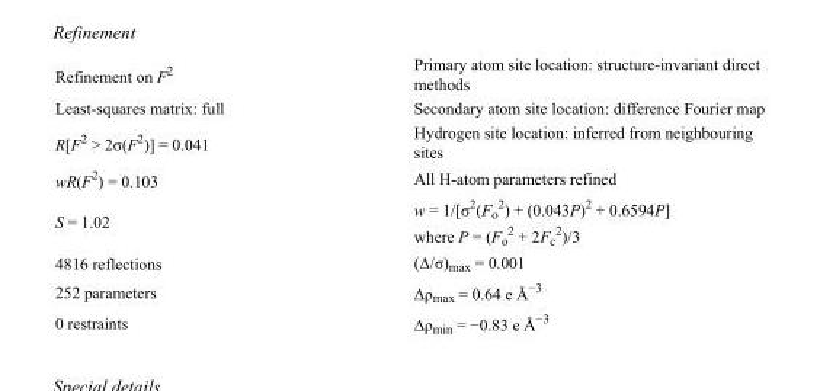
<table><tbody><tr><td>Refinement on F<sup>2</sup></td><td>Primary atom site location: structure-invariant direct methods</td></tr><tr><td>Least-squares matrix: full</td><td>Secondary atom site location: difference Fourier map</td></tr><tr><td>R[F<sup>2</sup> &gt; 2σ(F<sup>2</sup>)] = 0.041</td><td>Hydrogen site location: inferred from neighbouring sites</td></tr><tr><td>wR(F<sup>2</sup>) = 0.103</td><td>All H-atom parameters refined</td></tr><tr><td>S = 1.02</td><td>w = 1/[σ<sup>2</sup>(F<sub>o</sub> <sup>2</sup>) + (0.043P)<sup>2</sup> + 0.6594P] where P = (F<sub>o</sub> <sup>2</sup> + 2F<sub>c</sub> <sup>2</sup>)/3</td></tr><tr><td>4816 reflections</td><td>(Δ/σ)<sub>max</sub> = 0.001</td></tr><tr><td>252 parameters</td><td>Δρ<sub>max</sub> = 0.64 e Å<sup>−3</sup></td></tr><tr><td>0 restraints</td><td>Δρ<sub>min</sub> = −0.83 e Å<sup>−3</sup></td></tr></tbody></table>